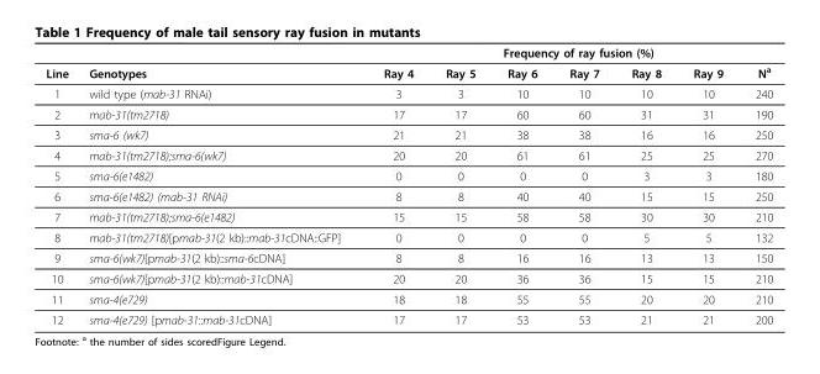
<table><thead><tr><td rowspan="2">Line</td><td rowspan="2">Genotypes</td><td colspan="7">Frequency of ray fusion (%)</td></tr><tr><td>Ray 4</td><td>Ray 5</td><td>Ray 6</td><td>Ray 7</td><td>Ray 8</td><td>Ray 9</td><td>N<sup>a</sup></td></tr></thead><tbody><tr><td>1</td><td>wild type (mab-31 RNAi)</td><td>3</td><td>3</td><td>10</td><td>10</td><td>10</td><td>10</td><td>240</td></tr><tr><td>2</td><td>mab-31(tm2718)</td><td>17</td><td>17</td><td>60</td><td>60</td><td>31</td><td>31</td><td>190</td></tr><tr><td>3</td><td>sma-6 (wk7)</td><td>21</td><td>21</td><td>38</td><td>38</td><td>16</td><td>16</td><td>250</td></tr><tr><td>4</td><td>mab-31(tm2718);sma-6(wk7)</td><td>20</td><td>20</td><td>61</td><td>61</td><td>25</td><td>25</td><td>270</td></tr><tr><td>5</td><td>sma-6(e1482)</td><td>0</td><td>0</td><td>0</td><td>0</td><td>3</td><td>3</td><td>180</td></tr><tr><td>6</td><td>sma-6(e1482) (mab-31 RNAi)</td><td>8</td><td>8</td><td>40</td><td>40</td><td>15</td><td>15</td><td>250</td></tr><tr><td>7</td><td>mab-31(tm2718);sma-6(e1482)</td><td>15</td><td>15</td><td>58</td><td>58</td><td>30</td><td>30</td><td>210</td></tr><tr><td>8</td><td>mab-31(tm2718)[pmab-31(2 kb)::mab-31cDNA::GFP]</td><td>0</td><td>0</td><td>0</td><td>0</td><td>5</td><td>5</td><td>132</td></tr><tr><td>9</td><td>sma-6(wk7)[pmab-31(2 kb)::sma-6cDNA]</td><td>8</td><td>8</td><td>16</td><td>16</td><td>13</td><td>13</td><td>150</td></tr><tr><td>10</td><td>sma-6(wk7)[pmab-31(2 kb)::mab-31cDNA]</td><td>20</td><td>20</td><td>36</td><td>36</td><td>15</td><td>15</td><td>210</td></tr><tr><td>11</td><td>sma-4(e729)</td><td>18</td><td>18</td><td>55</td><td>55</td><td>20</td><td>20</td><td>210</td></tr><tr><td>12</td><td>sma-4(e729) [pmab-31::mab-31cDNA]</td><td>17</td><td>17</td><td>53</td><td>53</td><td>21</td><td>21</td><td>200</td></tr></tbody></table>